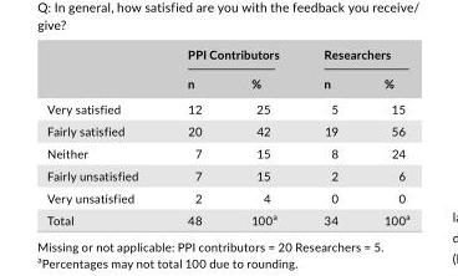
<table><thead><tr><td rowspan="2"></td><td colspan="2">PPI Contributors</td><td colspan="2">Researchers</td></tr><tr><td>n</td><td>%</td><td>n</td><td>%</td></tr></thead><tbody><tr><td>Very satisfied</td><td>12</td><td>25</td><td>5</td><td>15</td></tr><tr><td>Fairly satisfied</td><td>20</td><td>42</td><td>19</td><td>56</td></tr><tr><td>Neither</td><td>7</td><td>15</td><td>8</td><td>24</td></tr><tr><td>Fairly unsatisfied</td><td>7</td><td>15</td><td>2</td><td>6</td></tr><tr><td>Very unsatisfied</td><td>2</td><td>4</td><td>0</td><td>0</td></tr><tr><td>Total</td><td>48</td><td>100<sup>a</sup></td><td>34</td><td>100<sup>a</sup></td></tr></tbody></table>